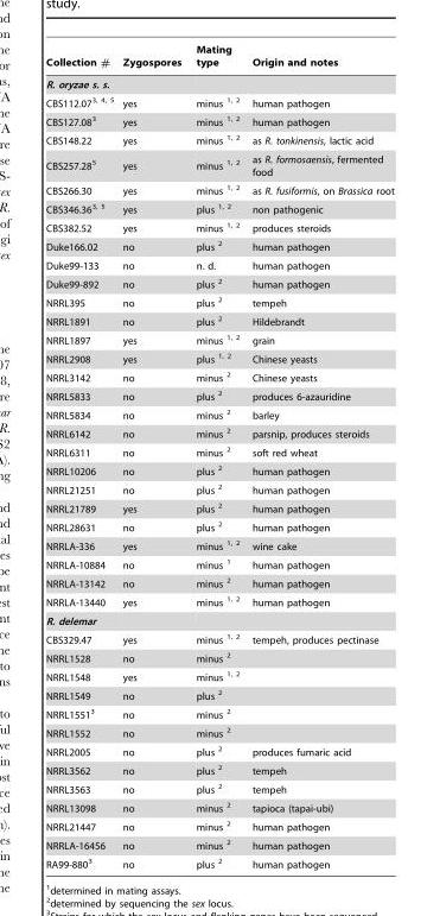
<table><thead><tr><td>Collection #</td><td>Zygospores</td><td>Mating type</td><td>Origin and notes</td></tr></thead><tbody><tr><td colspan="4">R. oryzae s. s.</td></tr><tr><td>CBS112.07<sup>3, 4, 5</sup></td><td>yes</td><td>minus 1, 2</td><td>human pathogen</td></tr><tr><td>CBS127.08<sup>3</sup></td><td>yes</td><td>minus 1, 2</td><td>human pathogen</td></tr><tr><td>CBS148.22</td><td>yes</td><td>minus 1, 2</td><td>as R. tonkinensis, lactic acid</td></tr><tr><td>CBS257.28<sup>5</sup></td><td>yes</td><td>minus 1, 2</td><td>as R. formosaensis, fermented food</td></tr><tr><td>CBS266.30</td><td>yes</td><td>minus 1, 2</td><td>as R. fusiformis, on Brassica root</td></tr><tr><td>CBS346.36<sup>3, 5</sup></td><td>yes</td><td>plus 1, 2</td><td>non pathogenic</td></tr><tr><td>CBS382.52</td><td>yes</td><td>minus 1, 2</td><td>produces steroids</td></tr><tr><td>Duke166.02</td><td>no</td><td>plus 2</td><td>human pathogen</td></tr><tr><td>Duke99-133</td><td>no</td><td>n. d.</td><td>human pathogen</td></tr><tr><td>Duke99-892</td><td>no</td><td>plus 2</td><td>human pathogen</td></tr><tr><td>NRRL395</td><td>no</td><td>plus 2</td><td>tempeh</td></tr><tr><td>NRRL1891</td><td>no</td><td>plus 2</td><td>Hildebrandt</td></tr><tr><td>NRRL1897</td><td>yes</td><td>minus 1, 2</td><td>grain</td></tr><tr><td>NRRL2908</td><td>yes</td><td>plus 1, 2</td><td>Chinese yeasts</td></tr><tr><td>NRRL3142</td><td>no</td><td>minus 2</td><td>Chinese yeasts</td></tr><tr><td>NRRL5833</td><td>no</td><td>plus 2</td><td>produces 6-azauridine</td></tr><tr><td>NRRL5834</td><td>no</td><td>minus 2</td><td>barley</td></tr><tr><td>NRRL6142</td><td>no</td><td>minus 2</td><td>parsnip, produces steroids</td></tr><tr><td>NRRL6311</td><td>no</td><td>minus 2</td><td>soft red wheat</td></tr><tr><td>NRRL10206</td><td>no</td><td>plus 2</td><td>human pathogen</td></tr><tr><td>NRRL21251</td><td>no</td><td>plus 2</td><td>human pathogen</td></tr><tr><td>NRRL21789</td><td>yes</td><td>plus 2</td><td>human pathogen</td></tr><tr><td>NRRL28631</td><td>no</td><td>plus 2</td><td>human pathogen</td></tr><tr><td>NRRLA-336</td><td>yes</td><td>minus 1, 2</td><td>wine cake</td></tr><tr><td>NRRLA-10884</td><td>no</td><td>minus 1</td><td>human pathogen</td></tr><tr><td>NRRLA-13142</td><td>no</td><td>minus 2</td><td>human pathogen</td></tr><tr><td>NRRLA-13440</td><td>yes</td><td>minus 1, 2</td><td>human pathogen</td></tr><tr><td colspan="4">R. delemar</td></tr><tr><td>CBS329.47</td><td>yes</td><td>minus 1, 2</td><td>tempeh, produces pectinase</td></tr><tr><td>NRRL1528</td><td>no</td><td>minus 2</td><td></td></tr><tr><td>NRRL1548</td><td>yes</td><td>minus 1, 2</td><td></td></tr><tr><td>NRRL1549</td><td>no</td><td>plus 2</td><td></td></tr><tr><td>NRRL1551<sup>3</sup></td><td>no</td><td>minus 2</td><td></td></tr><tr><td>NRRL1552</td><td>no</td><td>minus 2</td><td></td></tr><tr><td>NRRL2005</td><td>no</td><td>plus 2</td><td>produces fumaric acid</td></tr><tr><td>NRRL3562</td><td>no</td><td>plus 2</td><td>tempeh</td></tr><tr><td>NRRL3563</td><td>no</td><td>plus 2</td><td>tempeh</td></tr><tr><td>NRRL13098</td><td>no</td><td>minus 2</td><td>tapioca (tapai-ubi)</td></tr><tr><td>NRRL21447</td><td>no</td><td>minus 2</td><td>human pathogen</td></tr><tr><td>NRRLA-16456</td><td>no</td><td>minus 2</td><td>human pathogen</td></tr><tr><td>RA99-880<sup>3</sup></td><td>no</td><td>plus 2</td><td>human pathogen</td></tr></tbody></table>